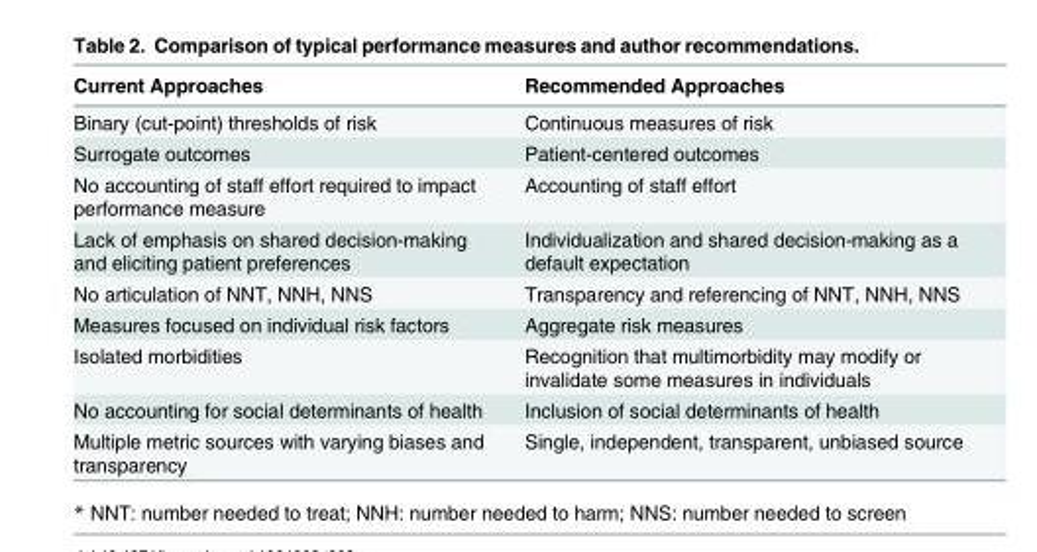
<table><thead><tr><td>Current Approaches</td><td>Recommended Approaches</td></tr></thead><tbody><tr><td>Binary (cut-point) thresholds of risk</td><td>Continuous measures of risk</td></tr><tr><td>Surrogate outcomes</td><td>Patient-centered outcomes</td></tr><tr><td>No accounting of staff effort required to impact performance measure</td><td>Accounting of staff effort</td></tr><tr><td>Lack of emphasis on shared decision-making and eliciting patient preferences</td><td>Individualization and shared decision-making as a default expectation</td></tr><tr><td>No articulation of NNT, NNH, NNS</td><td>Transparency and referencing of NNT, NNH, NNS</td></tr><tr><td>Measures focused on individual risk factors</td><td>Aggregate risk measures</td></tr><tr><td>Isolated morbidities</td><td>Recognition that multimorbidity may modify or invalidate some measures in individuals</td></tr><tr><td>No accounting for social determinants of health</td><td>Inclusion of social determinants of health</td></tr><tr><td>Multiple metric sources with varying biases and transparency</td><td>Single, independent, transparent, unbiased source</td></tr></tbody></table>